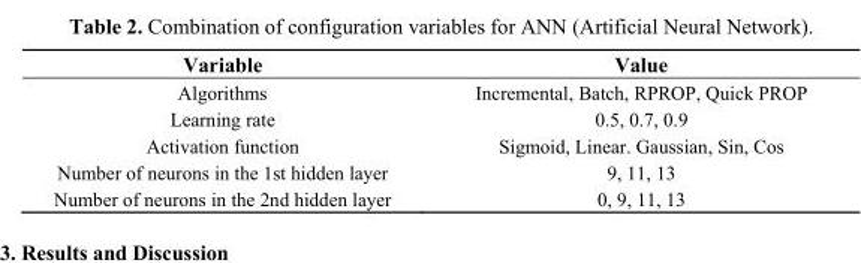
<table><thead><tr><td>Variable</td><td>Value</td></tr></thead><tbody><tr><td>Algorithms</td><td>Incremental, Batch, RPROP, Quick PROP</td></tr><tr><td>Learning rate</td><td>0.5, 0.7, 0.9</td></tr><tr><td>Activation function</td><td>Sigmoid, Linear. Gaussian, Sin, Cos</td></tr><tr><td>Number of neurons in the 1st hidden layer</td><td>9, 11, 13</td></tr><tr><td>Number of neurons in the 2nd hidden layer</td><td>0, 9, 11, 13</td></tr></tbody></table>